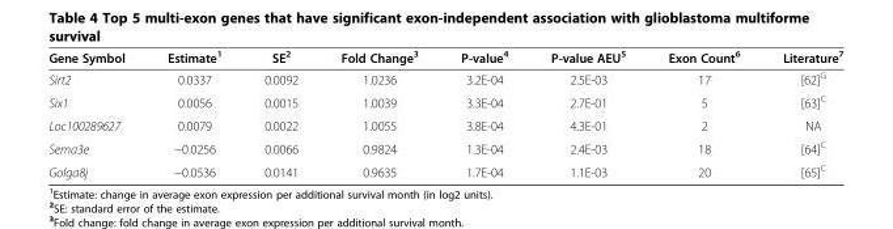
<table><thead><tr><td>Gene Symbol</td><td>Estimate<sup>1</sup></td><td>SE<sup>2</sup></td><td>Fold Change<sup>3</sup></td><td>P-value<sup>4</sup></td><td>P-value AEU<sup>5</sup></td><td>Exon Count<sup>6</sup></td><td>Literature<sup>7</sup></td></tr></thead><tbody><tr><td>Sirt2</td><td>0.0337</td><td>0.0092</td><td>1.0236</td><td>3.2E-04</td><td>2.5E-03</td><td>17</td><td>[62]<sup>G</sup></td></tr><tr><td>Six1</td><td>0.0056</td><td>0.0015</td><td>1.0039</td><td>3.3E-04</td><td>2.7E-01</td><td>5</td><td>[63]<sup>C</sup></td></tr><tr><td>Loc100289627</td><td>0.0079</td><td>0.0022</td><td>1.0055</td><td>3.8E-04</td><td>4.3E-01</td><td>2</td><td>NA</td></tr><tr><td>Sema3e</td><td>−0.0256</td><td>0.0066</td><td>0.9824</td><td>1.3E-04</td><td>2.4E-03</td><td>18</td><td>[64]<sup>C</sup></td></tr><tr><td>Golga8j</td><td>−0.0536</td><td>0.0141</td><td>0.9635</td><td>1.7E-04</td><td>1.1E-03</td><td>20</td><td>[65]<sup>C</sup></td></tr></tbody></table>